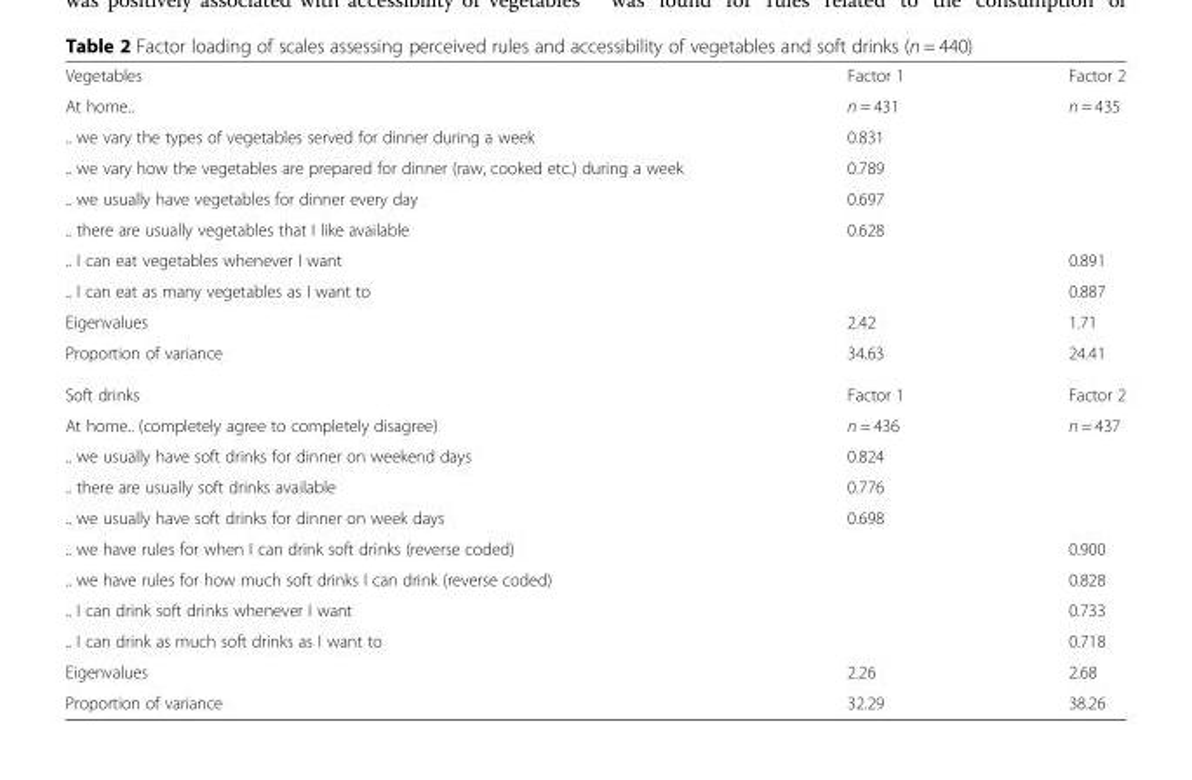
<table><tbody><tr><td>Vegetables</td><td>Factor 1</td><td>Factor 2</td></tr><tr><td>At home..</td><td>n = 431</td><td>n = 435</td></tr><tr><td>.. we vary the types of vegetables served for dinner during a week</td><td>0.831</td><td></td></tr><tr><td>.. we vary how the vegetables are prepared for dinner (raw, cooked etc.) during a week</td><td>0.789</td><td></td></tr><tr><td>.. we usually have vegetables for dinner every day</td><td>0.697</td><td></td></tr><tr><td>.. there are usually vegetables that I like available</td><td>0.628</td><td></td></tr><tr><td>.. I can eat vegetables whenever I want</td><td></td><td>0.891</td></tr><tr><td>.. I can eat as many vegetables as I want to</td><td></td><td>0.887</td></tr><tr><td>Eigenvalues</td><td>2.42</td><td>1.71</td></tr><tr><td>Proportion of variance</td><td>34.63</td><td>24.41</td></tr><tr><td>Soft drinks</td><td>Factor 1</td><td>Factor 2</td></tr><tr><td>At home.. (completely agree to completely disagree)</td><td>n = 436</td><td>n = 437</td></tr><tr><td>.. we usually have soft drinks for dinner on weekend days</td><td>0.824</td><td></td></tr><tr><td>.. there are usually soft drinks available</td><td>0.776</td><td></td></tr><tr><td>.. we usually have soft drinks for dinner on week days</td><td>0.698</td><td></td></tr><tr><td>.. we have rules for when I can drink soft drinks (reverse coded)</td><td></td><td>0.900</td></tr><tr><td>.. we have rules for how much soft drinks I can drink (reverse coded)</td><td></td><td>0.828</td></tr><tr><td>.. I can drink soft drinks whenever I want</td><td></td><td>0.733</td></tr><tr><td>.. I can drink as much soft drinks as I want to</td><td></td><td>0.718</td></tr><tr><td>Eigenvalues</td><td>2.26</td><td>2.68</td></tr><tr><td>Proportion of variance</td><td>32.29</td><td>38.26</td></tr></tbody></table>